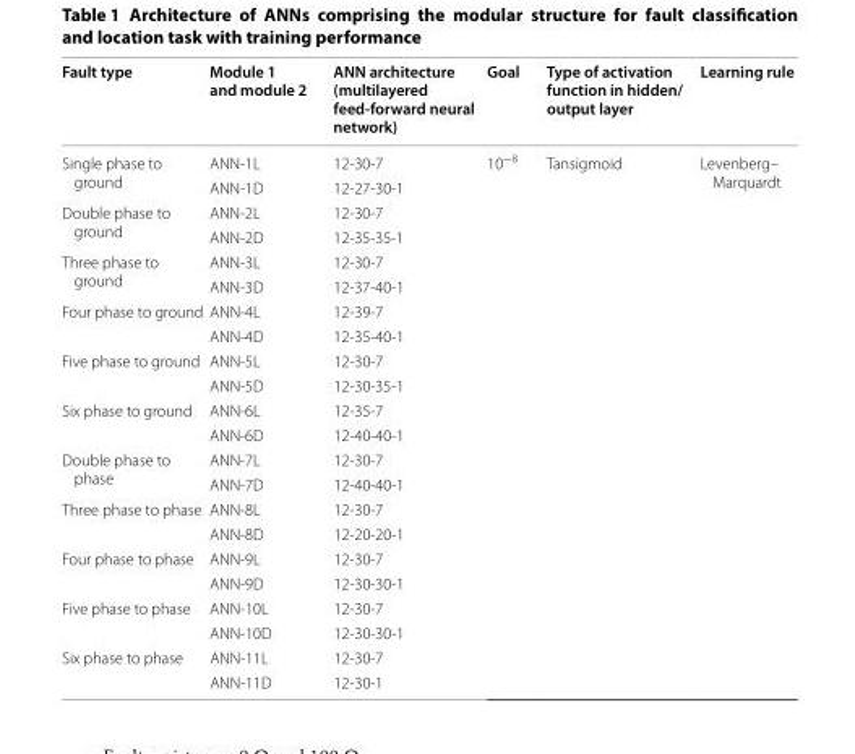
<table><thead><tr><td>Fault type</td><td>Module 1 and module 2</td><td>ANN architecture (multilayered feed‑forward neural network)</td><td>Goal</td><td>Type of activation function in hidden/ output layer</td><td>Learning rule</td></tr></thead><tbody><tr><td rowspan="2">Single phase to ground</td><td>ANN-1L</td><td>12-30-7</td><td rowspan="22">10<sup>−8</sup></td><td rowspan="22">Tansigmoid</td><td rowspan="22">Levenberg– Marquardt</td></tr><tr><td>ANN-1D</td><td>12-27-30-1</td></tr><tr><td rowspan="2">Double phase to ground</td><td>ANN-2L</td><td>12-30-7</td></tr><tr><td>ANN-2D</td><td>12-35-35-1</td></tr><tr><td rowspan="2">Three phase to ground</td><td>ANN-3L</td><td>12-30-7</td></tr><tr><td>ANN-3D</td><td>12-37-40-1</td></tr><tr><td rowspan="2">Four phase to ground</td><td>ANN-4L</td><td>12-39-7</td></tr><tr><td>ANN-4D</td><td>12-35-40-1</td></tr><tr><td rowspan="2">Five phase to ground</td><td>ANN-5L</td><td>12-30-7</td></tr><tr><td>ANN-5D</td><td>12-30-35-1</td></tr><tr><td rowspan="2">Six phase to ground</td><td>ANN-6L</td><td>12-35-7</td></tr><tr><td>ANN-6D</td><td>12-40-40-1</td></tr><tr><td rowspan="2">Double phase to phase</td><td>ANN-7L</td><td>12-30-7</td></tr><tr><td>ANN-7D</td><td>12-40-40-1</td></tr><tr><td rowspan="2">Three phase to phase</td><td>ANN-8L</td><td>12-30-7</td></tr><tr><td>ANN-8D</td><td>12-20-20-1</td></tr><tr><td rowspan="2">Four phase to phase</td><td>ANN-9L</td><td>12-30-7</td></tr><tr><td>ANN-9D</td><td>12-30-30-1</td></tr><tr><td rowspan="2">Five phase to phase</td><td>ANN-10L</td><td>12-30-7</td></tr><tr><td>ANN-10D</td><td>12-30-30-1</td></tr><tr><td rowspan="2">Six phase to phase</td><td>ANN-11L</td><td>12-30-7</td></tr><tr><td>ANN-11D</td><td>12-30-1</td></tr></tbody></table>